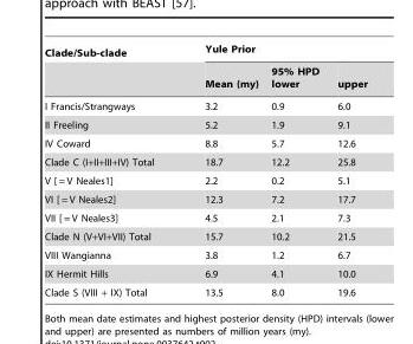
<table><thead><tr><td rowspan="2">Clade/Sub-clade</td><td colspan="3">Yule Prior</td></tr><tr><td>Mean (my)</td><td>95% HPD lower</td><td>upper</td></tr></thead><tbody><tr><td>I Francis/Strangways</td><td>3.2</td><td>0.9</td><td>6.0</td></tr><tr><td>II Freeling</td><td>5.2</td><td>1.9</td><td>9.1</td></tr><tr><td>IV Coward</td><td>8.8</td><td>5.7</td><td>12.6</td></tr><tr><td>Clade C (I+II+III+IV) Total</td><td>18.7</td><td>12.2</td><td>25.8</td></tr><tr><td>V [ = V Neales1]</td><td>2.2</td><td>0.2</td><td>5.1</td></tr><tr><td>VI [ = V Neales2]</td><td>12.3</td><td>7.2</td><td>17.7</td></tr><tr><td>VII [ = V Neales3]</td><td>4.5</td><td>2.1</td><td>7.3</td></tr><tr><td>Clade N (V+VI+VII) Total</td><td>15.7</td><td>10.2</td><td>21.5</td></tr><tr><td>VIII Wangianna</td><td>3.8</td><td>1.2</td><td>6.7</td></tr><tr><td>IX Hermit Hills</td><td>6.9</td><td>4.1</td><td>10.0</td></tr><tr><td>Clade S (VIII + IX) Total</td><td>13.5</td><td>8.0</td><td>19.6</td></tr></tbody></table>